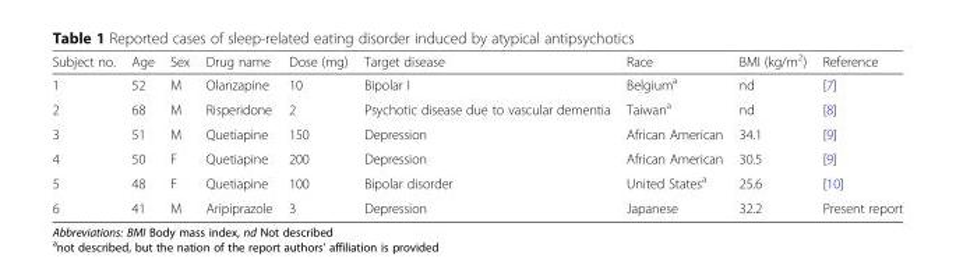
<table><thead><tr><td>Subject no.</td><td>Age</td><td>Sex</td><td>Drug name</td><td>Dose (mg)</td><td>Target disease</td><td>Race</td><td>BMI (kg/m<sup>2</sup>)</td><td>Reference</td></tr></thead><tbody><tr><td>1</td><td>52</td><td>M</td><td>Olanzapine</td><td>10</td><td>Bipolar I</td><td>Belgium<sup>a</sup></td><td>nd</td><td>[7]</td></tr><tr><td>2</td><td>68</td><td>M</td><td>Risperidone</td><td>2</td><td>Psychotic disease due to vascular dementia</td><td>Taiwan<sup>a</sup></td><td>nd</td><td>[8]</td></tr><tr><td>3</td><td>51</td><td>M</td><td>Quetiapine</td><td>150</td><td>Depression</td><td>African American</td><td>34.1</td><td>[9]</td></tr><tr><td>4</td><td>50</td><td>F</td><td>Quetiapine</td><td>200</td><td>Depression</td><td>African American</td><td>30.5</td><td>[9]</td></tr><tr><td>5</td><td>48</td><td>F</td><td>Quetiapine</td><td>100</td><td>Bipolar disorder</td><td>United States<sup>a</sup></td><td>25.6</td><td>[10]</td></tr><tr><td>6</td><td>41</td><td>M</td><td>Aripiprazole</td><td>3</td><td>Depression</td><td>Japanese</td><td>32.2</td><td>Present report</td></tr></tbody></table>